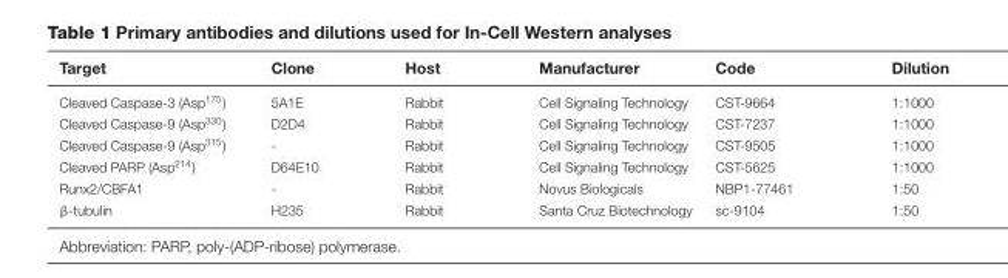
<table><thead><tr><td>Target</td><td>Clone</td><td>Host</td><td>Manufacturer</td><td>Code</td><td>Dilution</td></tr></thead><tbody><tr><td>Cleaved Caspase-3 (Asp<sup>175</sup>)</td><td>5A1E</td><td>Rabbit</td><td>Cell Signaling Technology</td><td>CST-9664</td><td>1:1000</td></tr><tr><td>Cleaved Caspase-9 (Asp<sup>330</sup>)</td><td>D2D4</td><td>Rabbit</td><td>Cell Signaling Technology</td><td>CST-7237</td><td>1:1000</td></tr><tr><td>Cleaved Caspase-9 (Asp<sup>315</sup>)</td><td>-</td><td>Rabbit</td><td>Cell Signaling Technology</td><td>CST-9505</td><td>1:1000</td></tr><tr><td>Cleaved PARP (Asp<sup>214</sup>)</td><td>D64E10</td><td>Rabbit</td><td>Cell Signaling Technology</td><td>CST-5625</td><td>1:1000</td></tr><tr><td>Runx2/CBFA1</td><td>-</td><td>Rabbit</td><td>Novus Biologicals</td><td>NBP1-77461</td><td>1:50</td></tr><tr><td>β-tubulin</td><td>H235</td><td>Rabbit</td><td>Santa Cruz Biotechnology</td><td>sc-9104</td><td>1:50</td></tr></tbody></table>